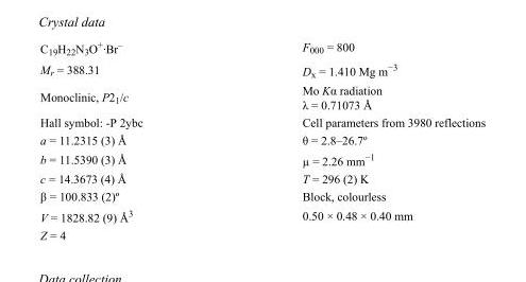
<table><tbody><tr><td>C<sub>19</sub>H<sub>22</sub>N<sub>3</sub>O<sup>+</sup>·Br<sup>–</sup></td><td>F000 = 800</td></tr><tr><td>M<sub>r</sub> = 388.31</td><td>D<sub>x</sub> = 1.410 Mg m<sup>−3</sup></td></tr><tr><td>Monoclinic, P2<sub>1</sub>/c</td><td>Mo Kα radiation λ = 0.71073 Å</td></tr><tr><td>Hall symbol: -P 2ybc</td><td>Cell parameters from 3980 reflections</td></tr><tr><td>a = 11.2315 (3) Å</td><td>θ = 2.8–26.7º</td></tr><tr><td>b = 11.5390 (3) Å</td><td>µ = 2.26 mm<sup>−1</sup></td></tr><tr><td>c = 14.3673 (4) Å</td><td>T = 296 (2) K</td></tr><tr><td>β = 100.833 (2)º</td><td>Block, colourless</td></tr><tr><td>V = 1828.82 (9) Å<sup>3</sup></td><td>0.50 × 0.48 × 0.40 mm</td></tr><tr><td>Z = 4</td><td></td></tr></tbody></table>